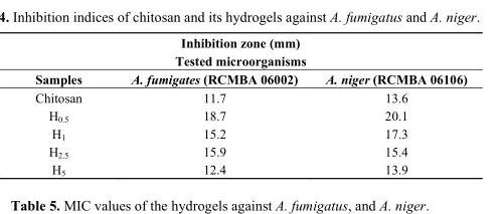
<table><thead><tr><td colspan="3">Inhibition zone (mm) Tested microorganisms</td></tr><tr><td>Samples</td><td>A. fumigates (RCMBA 06002)</td><td>A. niger (RCMBA 06106)</td></tr></thead><tbody><tr><td>Chitosan</td><td>11.7</td><td>13.6</td></tr><tr><td>H<sub>0.5</sub></td><td>18.7</td><td>20.1</td></tr><tr><td>H<sub>1</sub></td><td>15.2</td><td>17.3</td></tr><tr><td>H<sub>2.5</sub></td><td>15.9</td><td>15.4</td></tr><tr><td>H<sub>5</sub></td><td>12.4</td><td>13.9</td></tr></tbody></table>